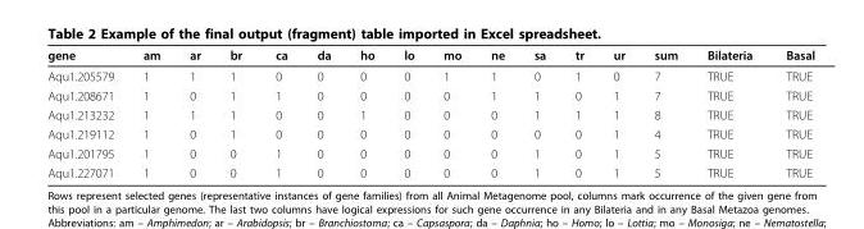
<table><thead><tr><td>gene</td><td>am</td><td>ar</td><td>br</td><td>ca</td><td>da</td><td>ho</td><td>lo</td><td>mo</td><td>ne</td><td>sa</td><td>tr</td><td>ur</td><td>sum</td><td>Bilateria</td><td>Basal</td></tr></thead><tbody><tr><td>Aqu1.205579</td><td>1</td><td>1</td><td>1</td><td>0</td><td>0</td><td>0</td><td>0</td><td>1</td><td>1</td><td>0</td><td>1</td><td>0</td><td>7</td><td>TRUE</td><td>TRUE</td></tr><tr><td>Aqu1.208671</td><td>1</td><td>0</td><td>1</td><td>1</td><td>0</td><td>0</td><td>0</td><td>0</td><td>1</td><td>1</td><td>0</td><td>1</td><td>7</td><td>TRUE</td><td>TRUE</td></tr><tr><td>Aqu1.213232</td><td>1</td><td>1</td><td>1</td><td>0</td><td>0</td><td>1</td><td>0</td><td>0</td><td>0</td><td>1</td><td>1</td><td>1</td><td>8</td><td>TRUE</td><td>TRUE</td></tr><tr><td>Aqu1.219112</td><td>1</td><td>0</td><td>1</td><td>0</td><td>0</td><td>0</td><td>0</td><td>0</td><td>0</td><td>0</td><td>0</td><td>1</td><td>4</td><td>TRUE</td><td>TRUE</td></tr><tr><td>Aqu1.201795</td><td>1</td><td>0</td><td>0</td><td>1</td><td>0</td><td>0</td><td>0</td><td>0</td><td>0</td><td>1</td><td>0</td><td>1</td><td>5</td><td>TRUE</td><td>TRUE</td></tr><tr><td>Aqu1.227071</td><td>1</td><td>0</td><td>0</td><td>1</td><td>0</td><td>0</td><td>0</td><td>0</td><td>0</td><td>1</td><td>0</td><td>1</td><td>5</td><td>TRUE</td><td>TRUE</td></tr></tbody></table>